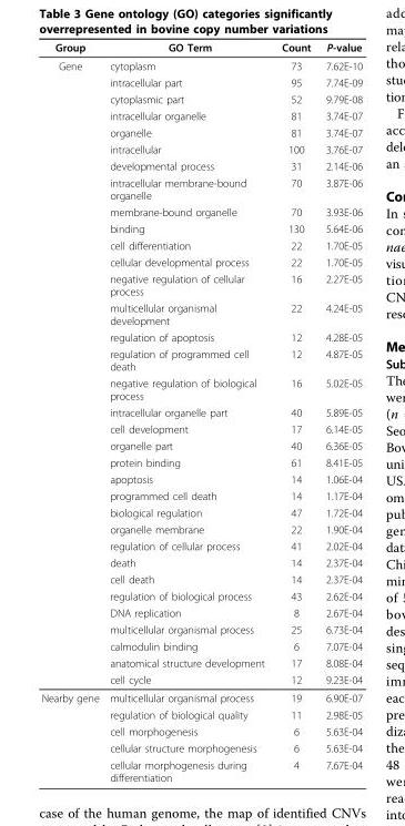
<table><thead><tr><td>Group</td><td>GO Term</td><td>Count</td><td>P-value</td></tr></thead><tbody><tr><td rowspan="34">Gene</td><td>cytoplasm</td><td>73</td><td>7.62E-10</td></tr><tr><td>intracellular part</td><td>95</td><td>7.74E-09</td></tr><tr><td>cytoplasmic part</td><td>52</td><td>9.79E-08</td></tr><tr><td>intracellular organelle</td><td>81</td><td>3.74E-07</td></tr><tr><td>organelle</td><td>81</td><td>3.74E-07</td></tr><tr><td>intracellular</td><td>100</td><td>3.76E-07</td></tr><tr><td>developmental process</td><td>31</td><td>2.14E-06</td></tr><tr><td>intracellular membrane-bound organelle</td><td>70</td><td>3.87E-06</td></tr><tr><td>membrane-bound organelle</td><td>70</td><td>3.93E-06</td></tr><tr><td>binding</td><td>130</td><td>5.64E-06</td></tr><tr><td>cell differentiation</td><td>22</td><td>1.70E-05</td></tr><tr><td>cellular developmental process</td><td>22</td><td>1.70E-05</td></tr><tr><td>negative regulation of cellular process</td><td>16</td><td>2.27E-05</td></tr><tr><td>multicellular organismal development</td><td>22</td><td>4.24E-05</td></tr><tr><td>regulation of apoptosis</td><td>12</td><td>4.28E-05</td></tr><tr><td>regulation of programmed cell death</td><td>12</td><td>4.87E-05</td></tr><tr><td>negative regulation of biological process</td><td>16</td><td>5.02E-05</td></tr><tr><td>intracellular organelle part</td><td>40</td><td>5.89E-05</td></tr><tr><td>cell development</td><td>17</td><td>6.14E-05</td></tr><tr><td>organelle part</td><td>40</td><td>6.36E-05</td></tr><tr><td>protein binding</td><td>61</td><td>8.41E-05</td></tr><tr><td>apoptosis</td><td>14</td><td>1.06E-04</td></tr><tr><td>programmed cell death</td><td>14</td><td>1.17E-04</td></tr><tr><td>biological regulation</td><td>47</td><td>1.72E-04</td></tr><tr><td>organelle membrane</td><td>22</td><td>1.90E-04</td></tr><tr><td>regulation of cellular process</td><td>41</td><td>2.02E-04</td></tr><tr><td>death</td><td>14</td><td>2.37E-04</td></tr><tr><td>cell death</td><td>14</td><td>2.37E-04</td></tr><tr><td>regulation of biological process</td><td>43</td><td>2.62E-04</td></tr><tr><td>DNA replication</td><td>8</td><td>2.67E-04</td></tr><tr><td>multicellular organismal process</td><td>25</td><td>6.73E-04</td></tr><tr><td>calmodulin binding</td><td>6</td><td>7.07E-04</td></tr><tr><td>anatomical structure development</td><td>17</td><td>8.08E-04</td></tr><tr><td>cell cycle</td><td>12</td><td>9.23E-04</td></tr><tr><td rowspan="5">Nearby gene</td><td>multicellular organismal process</td><td>19</td><td>6.90E-07</td></tr><tr><td>regulation of biological quality</td><td>11</td><td>2.98E-05</td></tr><tr><td>cell morphogenesis</td><td>6</td><td>5.63E-04</td></tr><tr><td>cellular structure morphogenesis</td><td>6</td><td>5.63E-04</td></tr><tr><td>cellular morphogenesis during differentiation</td><td>4</td><td>7.67E-04</td></tr></tbody></table>